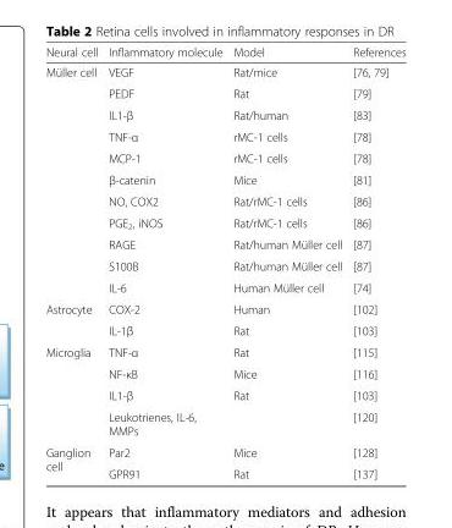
<table><thead><tr><td>Neural cell</td><td>Inflammatory molecule</td><td>Model</td><td>References</td></tr></thead><tbody><tr><td rowspan="11">Müller cell</td><td>VEGF</td><td>Rat/mice</td><td>[76, 79]</td></tr><tr><td>PEDF</td><td>Rat</td><td>[79]</td></tr><tr><td>IL1-β</td><td>Rat/human</td><td>[83]</td></tr><tr><td>TNF-α</td><td>rMC-1 cells</td><td>[78]</td></tr><tr><td>MCP-1</td><td>rMC-1 cells</td><td>[78]</td></tr><tr><td>β-catenin</td><td>Mice</td><td>[81]</td></tr><tr><td>NO, COX2</td><td>Rat/rMC-1 cells</td><td>[86]</td></tr><tr><td>PGE<sub>2</sub>, iNOS</td><td>Rat/rMC-1 cells</td><td>[86]</td></tr><tr><td>RAGE</td><td>Rat/human Müller cell</td><td>[87]</td></tr><tr><td>S100B</td><td>Rat/human Müller cell</td><td>[87]</td></tr><tr><td>IL-6</td><td>Human Müller cell</td><td>[74]</td></tr><tr><td rowspan="2">Astrocyte</td><td>COX-2</td><td>Human</td><td>[102]</td></tr><tr><td>IL-1β</td><td>Rat</td><td>[103]</td></tr><tr><td rowspan="4">Microglia</td><td>TNF-α</td><td>Rat</td><td>[115]</td></tr><tr><td>NF-κB</td><td>Mice</td><td>[116]</td></tr><tr><td>IL1-β</td><td>Rat</td><td>[103]</td></tr><tr><td>Leukotrienes, IL-6, MMPs</td><td></td><td>[120]</td></tr><tr><td rowspan="2">Ganglion cell</td><td>Par2</td><td>Mice</td><td>[128]</td></tr><tr><td>GPR91</td><td>Rat</td><td>[137]</td></tr></tbody></table>